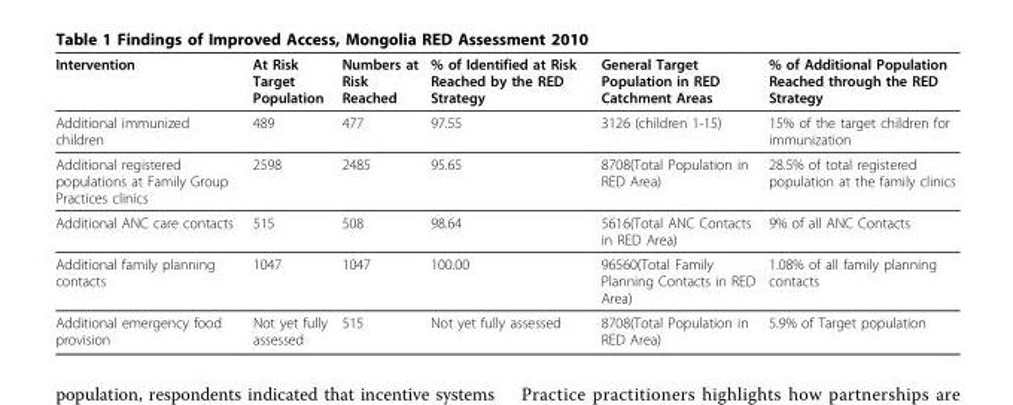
<table><thead><tr><td>Intervention</td><td>At Risk Target Population</td><td>Numbers at Risk Reached</td><td>% of Identified at Risk Reached by the RED Strategy</td><td>General Target Population in RED Catchment Areas</td><td>% of Additional Population Reached through the RED Strategy</td></tr></thead><tbody><tr><td>Additional immunized children</td><td>489</td><td>477</td><td>97.55</td><td>3126 (children 1-15)</td><td>15% of the target children for immunization</td></tr><tr><td>Additional registered populations at Family Group Practices clinics</td><td>2598</td><td>2485</td><td>95.65</td><td>8708(Total Population in RED Area)</td><td>28.5% of total registered population at the family clinics</td></tr><tr><td>Additional ANC care contacts</td><td>515</td><td>508</td><td>98.64</td><td>5616(Total ANC Contacts in RED Area)</td><td>9% of all ANC Contacts</td></tr><tr><td>Additional family planning contacts</td><td>1047</td><td>1047</td><td>100.00</td><td>96560(Total Family Planning Contacts in RED Area)</td><td>1.08% of all family planning contacts</td></tr><tr><td>Additional emergency food provision</td><td>Not yet fully assessed</td><td>515</td><td>Not yet fully assessed</td><td>8708(Total Population in RED Area)</td><td>5.9% of Target population</td></tr></tbody></table>